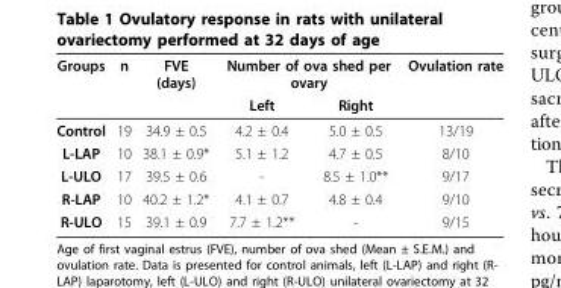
<table><thead><tr><td rowspan="2">Groups</td><td rowspan="2">n</td><td rowspan="2">FVE (days)</td><td colspan="2">Number of ova shed per ovary</td><td rowspan="2">Ovulation rate</td></tr><tr><td>Left</td><td>Right</td></tr></thead><tbody><tr><td>Control</td><td>19</td><td>34.9 ± 0.5</td><td>4.2 ± 0.4</td><td>5.0 ± 0.5</td><td>13/19</td></tr><tr><td>L-LAP</td><td>10</td><td>38.1 ± 0.9*</td><td>5.1 ± 1.2</td><td>4.7 ± 0.5</td><td>8/10</td></tr><tr><td>L-ULO</td><td>17</td><td>39.5 ± 0.6</td><td>-</td><td>8.5 ± 1.0**</td><td>9/17</td></tr><tr><td>R-LAP</td><td>10</td><td>40.2 ± 1.2*</td><td>4.1 ± 0.7</td><td>4.8 ± 0.4</td><td>9/10</td></tr><tr><td>R-ULO</td><td>15</td><td>39.1 ± 0.9</td><td>7.7 ± 1.2**</td><td>-</td><td>9/15</td></tr></tbody></table>